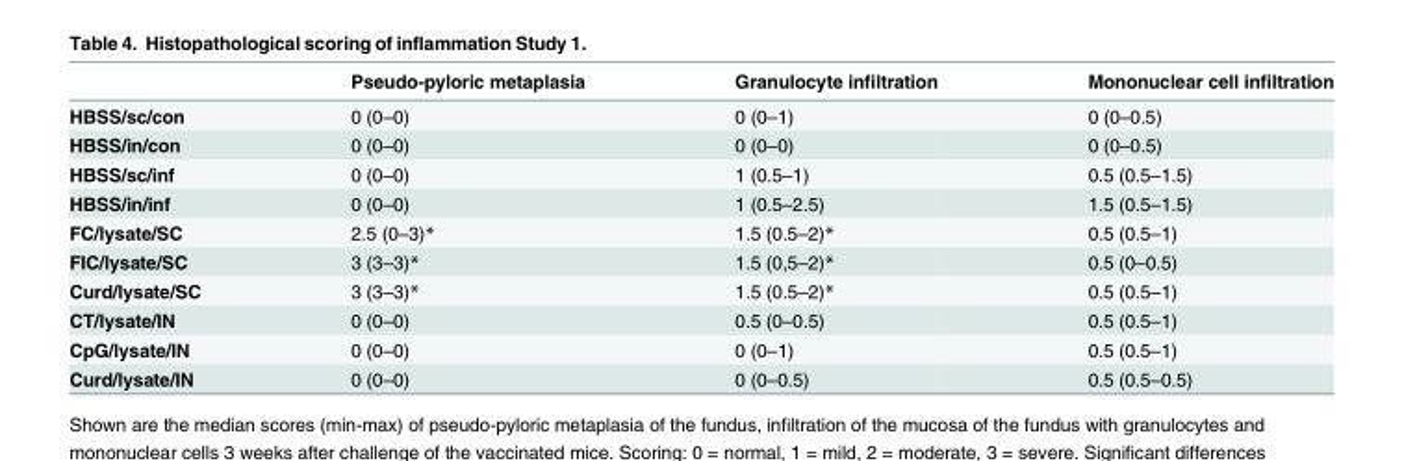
<table><thead><tr><td></td><td>Pseudo-pyloric metaplasia</td><td>Granulocyte infiltration</td><td>Mononuclear cell infiltration</td></tr></thead><tbody><tr><td>HBSS/sc/con</td><td>0 (0–0)</td><td>0 (0–1)</td><td>0 (0–0.5)</td></tr><tr><td>HBSS/in/con</td><td>0 (0–0)</td><td>0 (0–0)</td><td>0 (0–0.5)</td></tr><tr><td>HBSS/sc/inf</td><td>0 (0–0)</td><td>1 (0.5–1)</td><td>0.5 (0.5–1.5)</td></tr><tr><td>HBSS/in/inf</td><td>0 (0–0)</td><td>1 (0.5–2.5)</td><td>1.5 (0.5–1.5)</td></tr><tr><td>FC/lysate/SC</td><td>2.5 (0–3)*</td><td>1.5 (0.5–2)*</td><td>0.5 (0.5–1)</td></tr><tr><td>FIC/lysate/SC</td><td>3 (3–3)*</td><td>1.5 (0,5–2)*</td><td>0.5 (0–0.5)</td></tr><tr><td>Curd/lysate/SC</td><td>3 (3–3)*</td><td>1.5 (0.5–2)*</td><td>0.5 (0.5–1)</td></tr><tr><td>CT/lysate/IN</td><td>0 (0–0)</td><td>0.5 (0–0.5)</td><td>0.5 (0.5–1)</td></tr><tr><td>CpG/lysate/IN</td><td>0 (0–0)</td><td>0 (0–1)</td><td>0.5 (0.5–1)</td></tr><tr><td>Curd/lysate/IN</td><td>0 (0–0)</td><td>0 (0–0.5)</td><td>0.5 (0.5–0.5)</td></tr></tbody></table>